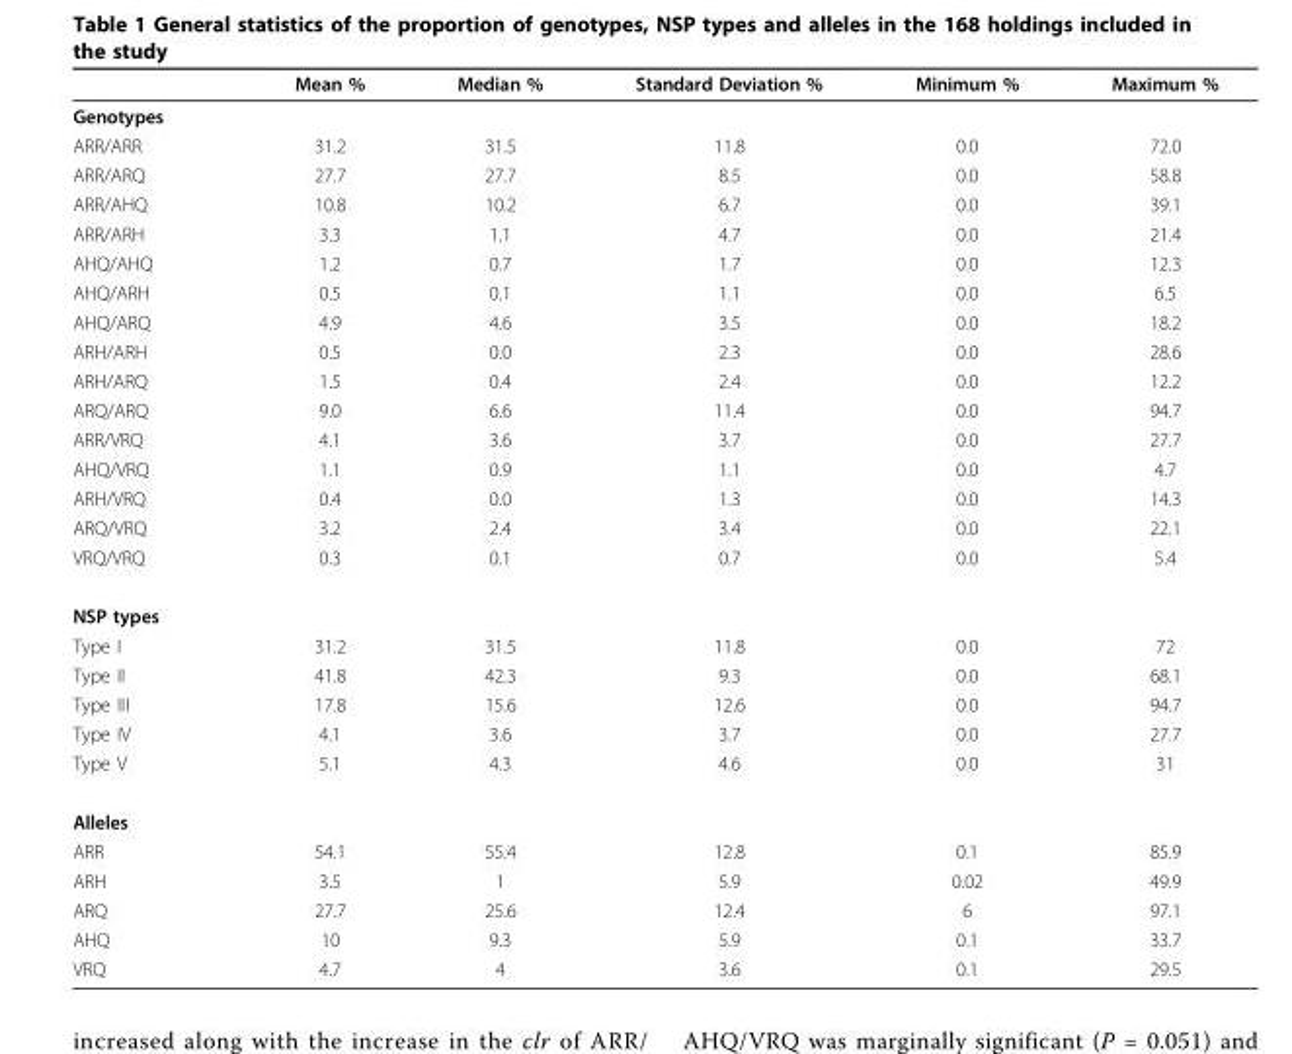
<table><thead><tr><td></td><td>Mean %</td><td>Median %</td><td>Standard Deviation %</td><td>Minimum %</td><td>Maximum %</td></tr></thead><tbody><tr><td colspan="6">Genotypes</td></tr><tr><td>ARR/ARR</td><td>31.2</td><td>31.5</td><td>11.8</td><td>0.0</td><td>72.0</td></tr><tr><td>ARR/ARQ</td><td>27.7</td><td>27.7</td><td>8.5</td><td>0.0</td><td>58.8</td></tr><tr><td>ARR/AHQ</td><td>10.8</td><td>10.2</td><td>6.7</td><td>0.0</td><td>39.1</td></tr><tr><td>ARR/ARH</td><td>3.3</td><td>1.1</td><td>4.7</td><td>0.0</td><td>21.4</td></tr><tr><td>AHQ/AHQ</td><td>1.2</td><td>0.7</td><td>1.7</td><td>0.0</td><td>12.3</td></tr><tr><td>AHQ/ARH</td><td>0.5</td><td>0.1</td><td>1.1</td><td>0.0</td><td>6.5</td></tr><tr><td>AHQ/ARQ</td><td>4.9</td><td>4.6</td><td>3.5</td><td>0.0</td><td>18.2</td></tr><tr><td>ARH/ARH</td><td>0.5</td><td>0.0</td><td>2.3</td><td>0.0</td><td>28.6</td></tr><tr><td>ARH/ARQ</td><td>1.5</td><td>0.4</td><td>2.4</td><td>0.0</td><td>12.2</td></tr><tr><td>ARQ/ARQ</td><td>9.0</td><td>6.6</td><td>11.4</td><td>0.0</td><td>94.7</td></tr><tr><td>ARR/VRQ</td><td>4.1</td><td>3.6</td><td>3.7</td><td>0.0</td><td>27.7</td></tr><tr><td>AHQ/VRQ</td><td>1.1</td><td>0.9</td><td>1.1</td><td>0.0</td><td>4.7</td></tr><tr><td>ARH/VRQ</td><td>0.4</td><td>0.0</td><td>1.3</td><td>0.0</td><td>14.3</td></tr><tr><td>ARQ/VRQ</td><td>3.2</td><td>2.4</td><td>3.4</td><td>0.0</td><td>22.1</td></tr><tr><td>VRQ/VRQ</td><td>0.3</td><td>0.1</td><td>0.7</td><td>0.0</td><td>5.4</td></tr><tr><td colspan="6">NSP types</td></tr><tr><td>Type I</td><td>31.2</td><td>31.5</td><td>11.8</td><td>0.0</td><td>72</td></tr><tr><td>Type II</td><td>41.8</td><td>42.3</td><td>9.3</td><td>0.0</td><td>68.1</td></tr><tr><td>Type III</td><td>17.8</td><td>15.6</td><td>12.6</td><td>0.0</td><td>94.7</td></tr><tr><td>Type IV</td><td>4.1</td><td>3.6</td><td>3.7</td><td>0.0</td><td>27.7</td></tr><tr><td>Type V</td><td>5.1</td><td>4.3</td><td>4.6</td><td>0.0</td><td>31</td></tr><tr><td colspan="6">Alleles</td></tr><tr><td>ARR</td><td>54.1</td><td>55.4</td><td>12.8</td><td>0.1</td><td>85.9</td></tr><tr><td>ARH</td><td>3.5</td><td>1</td><td>5.9</td><td>0.02</td><td>49.9</td></tr><tr><td>ARQ</td><td>27.7</td><td>25.6</td><td>12.4</td><td>6</td><td>97.1</td></tr><tr><td>AHQ</td><td>10</td><td>9.3</td><td>5.9</td><td>0.1</td><td>33.7</td></tr><tr><td>VRQ</td><td>4.7</td><td>4</td><td>3.6</td><td>0.1</td><td>29.5</td></tr></tbody></table>